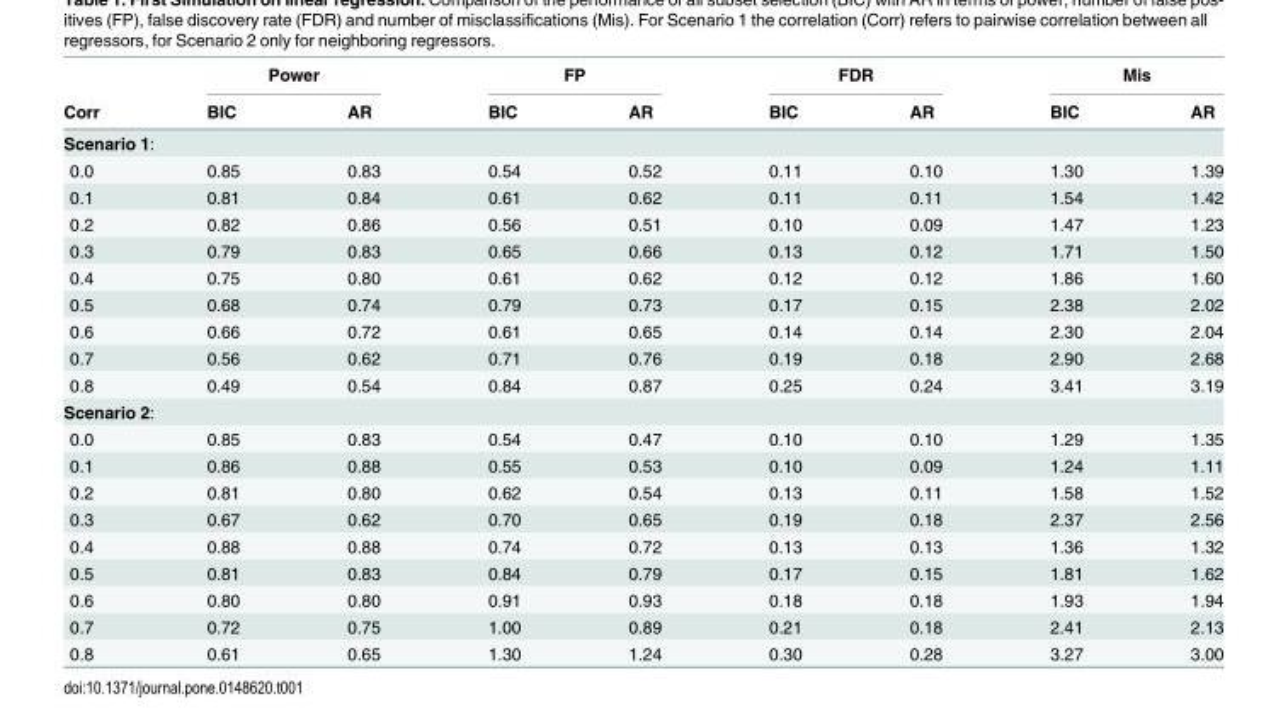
<table><thead><tr><td rowspan="2">Corr</td><td colspan="2">Power</td><td colspan="2">FP</td><td colspan="2">FDR</td><td colspan="2">Mis</td></tr><tr><td>BIC</td><td>AR</td><td>BIC</td><td>AR</td><td>BIC</td><td>AR</td><td>BIC</td><td>AR</td></tr></thead><tbody><tr><td colspan="9">Scenario 1:</td></tr><tr><td>0.0</td><td>0.85</td><td>0.83</td><td>0.54</td><td>0.52</td><td>0.11</td><td>0.10</td><td>1.30</td><td>1.39</td></tr><tr><td>0.1</td><td>0.81</td><td>0.84</td><td>0.61</td><td>0.62</td><td>0.11</td><td>0.11</td><td>1.54</td><td>1.42</td></tr><tr><td>0.2</td><td>0.82</td><td>0.86</td><td>0.56</td><td>0.51</td><td>0.10</td><td>0.09</td><td>1.47</td><td>1.23</td></tr><tr><td>0.3</td><td>0.79</td><td>0.83</td><td>0.65</td><td>0.66</td><td>0.13</td><td>0.12</td><td>1.71</td><td>1.50</td></tr><tr><td>0.4</td><td>0.75</td><td>0.80</td><td>0.61</td><td>0.62</td><td>0.12</td><td>0.12</td><td>1.86</td><td>1.60</td></tr><tr><td>0.5</td><td>0.68</td><td>0.74</td><td>0.79</td><td>0.73</td><td>0.17</td><td>0.15</td><td>2.38</td><td>2.02</td></tr><tr><td>0.6</td><td>0.66</td><td>0.72</td><td>0.61</td><td>0.65</td><td>0.14</td><td>0.14</td><td>2.30</td><td>2.04</td></tr><tr><td>0.7</td><td>0.56</td><td>0.62</td><td>0.71</td><td>0.76</td><td>0.19</td><td>0.18</td><td>2.90</td><td>2.68</td></tr><tr><td>0.8</td><td>0.49</td><td>0.54</td><td>0.84</td><td>0.87</td><td>0.25</td><td>0.24</td><td>3.41</td><td>3.19</td></tr><tr><td colspan="9">Scenario 2:</td></tr><tr><td>0.0</td><td>0.85</td><td>0.83</td><td>0.54</td><td>0.47</td><td>0.10</td><td>0.10</td><td>1.29</td><td>1.35</td></tr><tr><td>0.1</td><td>0.86</td><td>0.88</td><td>0.55</td><td>0.53</td><td>0.10</td><td>0.09</td><td>1.24</td><td>1.11</td></tr><tr><td>0.2</td><td>0.81</td><td>0.80</td><td>0.62</td><td>0.54</td><td>0.13</td><td>0.11</td><td>1.58</td><td>1.52</td></tr><tr><td>0.3</td><td>0.67</td><td>0.62</td><td>0.70</td><td>0.65</td><td>0.19</td><td>0.18</td><td>2.37</td><td>2.56</td></tr><tr><td>0.4</td><td>0.88</td><td>0.88</td><td>0.74</td><td>0.72</td><td>0.13</td><td>0.13</td><td>1.36</td><td>1.32</td></tr><tr><td>0.5</td><td>0.81</td><td>0.83</td><td>0.84</td><td>0.79</td><td>0.17</td><td>0.15</td><td>1.81</td><td>1.62</td></tr><tr><td>0.6</td><td>0.80</td><td>0.80</td><td>0.91</td><td>0.93</td><td>0.18</td><td>0.18</td><td>1.93</td><td>1.94</td></tr><tr><td>0.7</td><td>0.72</td><td>0.75</td><td>1.00</td><td>0.89</td><td>0.21</td><td>0.18</td><td>2.41</td><td>2.13</td></tr><tr><td>0.8</td><td>0.61</td><td>0.65</td><td>1.30</td><td>1.24</td><td>0.30</td><td>0.28</td><td>3.27</td><td>3.00</td></tr></tbody></table>